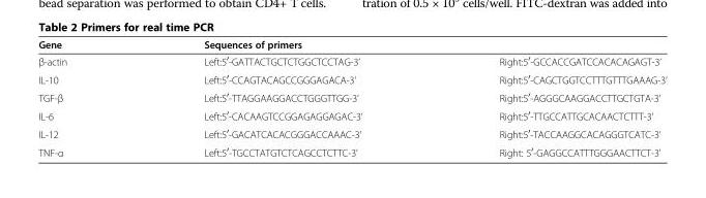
<table><thead><tr><td rowspan="2">Gene β-actin</td><td colspan="2">Sequences of primers</td></tr><tr><td>Left:5<sup>′</sup>-GATTACTGCTCTGGCTCCTAG-3’</td><td>Right:5<sup>′</sup>-GCCACCGATCCACACAGAGT-3’</td></tr></thead><tbody><tr><td>IL-10</td><td>Left:5<sup>′</sup>-CCAGTACAGCCGGGAGACA-3’</td><td>Right:5<sup>′</sup>-CAGCTGGTCCTTTGTTTGAAAG-3’</td></tr><tr><td>TGF-β</td><td>Left:5<sup>′</sup>-TTAGGAAGGACCTGGGTTGG-3’</td><td>Right:5<sup>′</sup>-AGGGCAAGGACCTTGCTGTA-3’</td></tr><tr><td>IL-6</td><td>Left:5<sup>′</sup>-CACAAGTCCGGAGAGGAGAC-3’</td><td>Right:5<sup>′</sup>-TTGCCATTGCACAACTCTTT-3’</td></tr><tr><td>IL-12</td><td>Left:5<sup>′</sup>-GACATCACACGGGACCAAAC-3’</td><td>Right:5<sup>′</sup>-TACCAAGGCACAGGGTCATC-3’</td></tr><tr><td>TNF-α</td><td>Left:5<sup>′</sup>-TGCCTATGTCTCAGCCTCTTC-3&#x27;</td><td>Right: 5<sup>′</sup>-GAGGCCATTTGGGAACTTCT-3&#x27;</td></tr></tbody></table>